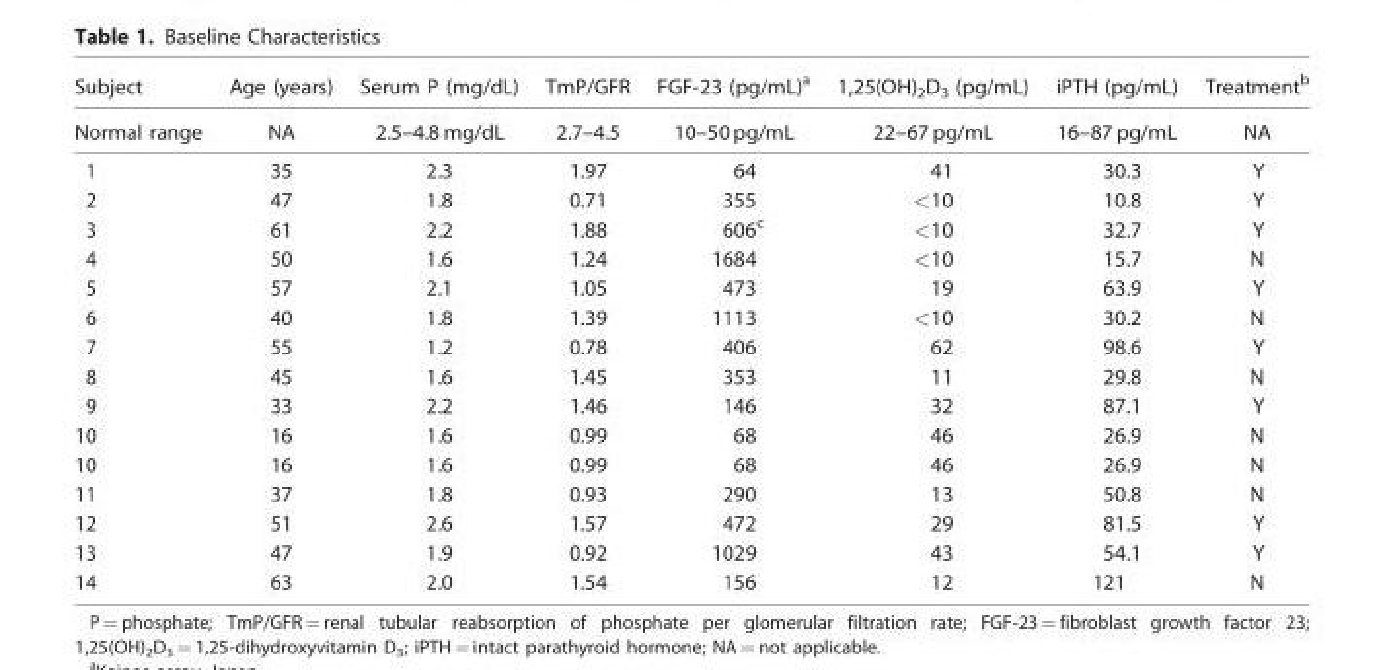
<table><thead><tr><td rowspan="2">Subject Normal range</td><td rowspan="2">Age (years) NA</td><td rowspan="2">Serum P (mg/dL) 2.5–4.8 mg/dL</td><td rowspan="2">TmP/GFR 2.7–4.5</td><td rowspan="2">FGF-23 (pg/mL)a 10–50 pg/mL</td><td rowspan="2">1,25(OH)2D3 (pg/mL) 22–67 pg/mL</td><td rowspan="2">iPTH (pg/mL) 16–87 pg/mL</td><td rowspan="2">Treatmentb NA</td></tr><tr></tr></thead><tbody><tr><td>1</td><td>35</td><td>2.3</td><td>1.97</td><td>64</td><td>41</td><td>30.3</td><td>Y</td></tr><tr><td>2</td><td>47</td><td>1.8</td><td>0.71</td><td>355</td><td>&lt;10</td><td>10.8</td><td>Y</td></tr><tr><td>3</td><td>61</td><td>2.2</td><td>1.88</td><td>606<sup>c</sup></td><td>&lt;10</td><td>32.7</td><td>Y</td></tr><tr><td>4</td><td>50</td><td>1.6</td><td>1.24</td><td>1684</td><td>&lt;10</td><td>15.7</td><td>N</td></tr><tr><td>5</td><td>57</td><td>2.1</td><td>1.05</td><td>473</td><td>19</td><td>63.9</td><td>Y</td></tr><tr><td>6</td><td>40</td><td>1.8</td><td>1.39</td><td>1113</td><td>&lt;10</td><td>30.2</td><td>N</td></tr><tr><td>7</td><td>55</td><td>1.2</td><td>0.78</td><td>406</td><td>62</td><td>98.6</td><td>Y</td></tr><tr><td>8</td><td>45</td><td>1.6</td><td>1.45</td><td>353</td><td>11</td><td>29.8</td><td>N</td></tr><tr><td>9</td><td>33</td><td>2.2</td><td>1.46</td><td>146</td><td>32</td><td>87.1</td><td>Y</td></tr><tr><td>10</td><td>16</td><td>1.6</td><td>0.99</td><td>68</td><td>46</td><td>26.9</td><td>N</td></tr><tr><td>10</td><td>16</td><td>1.6</td><td>0.99</td><td>68</td><td>46</td><td>26.9</td><td>N</td></tr><tr><td>11</td><td>37</td><td>1.8</td><td>0.93</td><td>290</td><td>13</td><td>50.8</td><td>N</td></tr><tr><td>12</td><td>51</td><td>2.6</td><td>1.57</td><td>472</td><td>29</td><td>81.5</td><td>Y</td></tr><tr><td>13</td><td>47</td><td>1.9</td><td>0.92</td><td>1029</td><td>43</td><td>54.1</td><td>Y</td></tr><tr><td>14</td><td>63</td><td>2.0</td><td>1.54</td><td>156</td><td>12</td><td>121</td><td>N</td></tr></tbody></table>